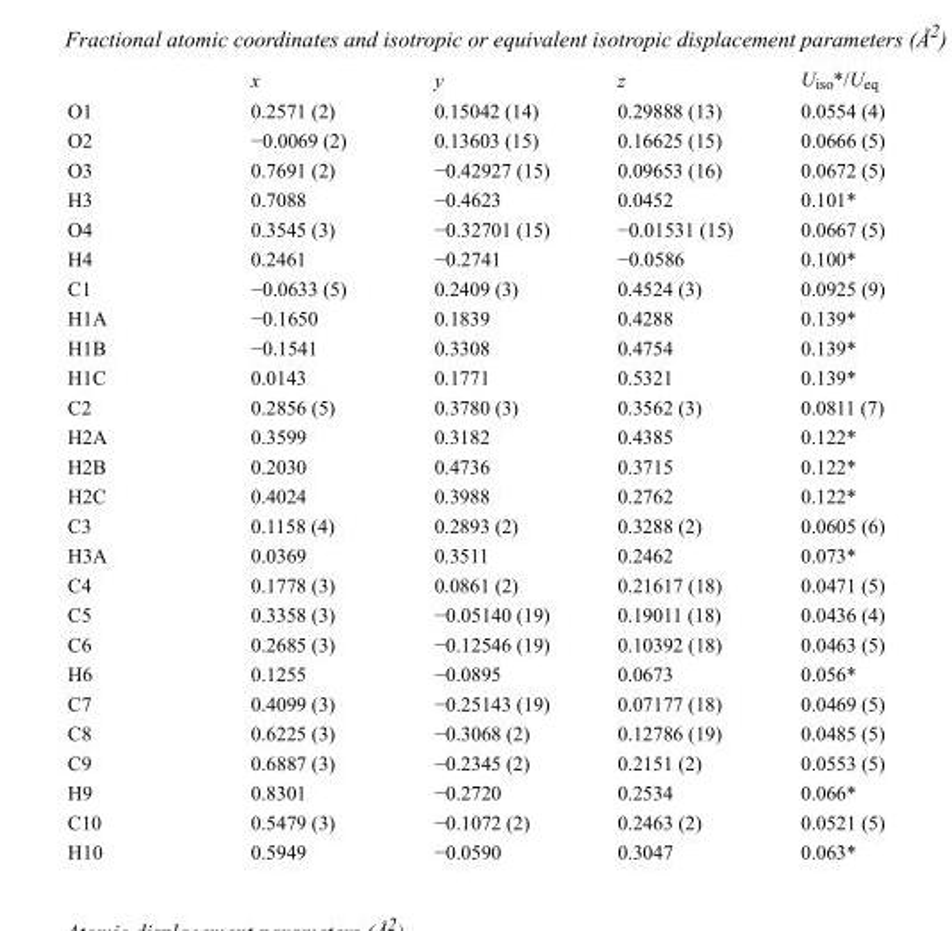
<table><thead><tr><td></td><td>x</td><td>y</td><td>z</td><td>U<sub>iso</sub>*/U<sub>eq</sub></td></tr></thead><tbody><tr><td>O1</td><td>0.2571 (2)</td><td>0.15042 (14)</td><td>0.29888 (13)</td><td>0.0554 (4)</td></tr><tr><td>O2</td><td>−0.0069 (2)</td><td>0.13603 (15)</td><td>0.16625 (15)</td><td>0.0666 (5)</td></tr><tr><td>O3</td><td>0.7691 (2)</td><td>−0.42927 (15)</td><td>0.09653 (16)</td><td>0.0672 (5)</td></tr><tr><td>H3</td><td>0.7088</td><td>−0.4623</td><td>0.0452</td><td>0.101*</td></tr><tr><td>O4</td><td>0.3545 (3)</td><td>−0.32701 (15)</td><td>−0.01531 (15)</td><td>0.0667 (5)</td></tr><tr><td>H4</td><td>0.2461</td><td>−0.2741</td><td>−0.0586</td><td>0.100*</td></tr><tr><td>C1</td><td>−0.0633 (5)</td><td>0.2409 (3)</td><td>0.4524 (3)</td><td>0.0925 (9)</td></tr><tr><td>H1A</td><td>−0.1650</td><td>0.1839</td><td>0.4288</td><td>0.139*</td></tr><tr><td>H1B</td><td>−0.1541</td><td>0.3308</td><td>0.4754</td><td>0.139*</td></tr><tr><td>H1C</td><td>0.0143</td><td>0.1771</td><td>0.5321</td><td>0.139*</td></tr><tr><td>C2</td><td>0.2856 (5)</td><td>0.3780 (3)</td><td>0.3562 (3)</td><td>0.0811 (7)</td></tr><tr><td>H2A</td><td>0.3599</td><td>0.3182</td><td>0.4385</td><td>0.122*</td></tr><tr><td>H2B</td><td>0.2030</td><td>0.4736</td><td>0.3715</td><td>0.122*</td></tr><tr><td>H2C</td><td>0.4024</td><td>0.3988</td><td>0.2762</td><td>0.122*</td></tr><tr><td>C3</td><td>0.1158 (4)</td><td>0.2893 (2)</td><td>0.3288 (2)</td><td>0.0605 (6)</td></tr><tr><td>H3A</td><td>0.0369</td><td>0.3511</td><td>0.2462</td><td>0.073*</td></tr><tr><td>C4</td><td>0.1778 (3)</td><td>0.0861 (2)</td><td>0.21617 (18)</td><td>0.0471 (5)</td></tr><tr><td>C5</td><td>0.3358 (3)</td><td>−0.05140 (19)</td><td>0.19011 (18)</td><td>0.0436 (4)</td></tr><tr><td>C6</td><td>0.2685 (3)</td><td>−0.12546 (19)</td><td>0.10392 (18)</td><td>0.0463 (5)</td></tr><tr><td>H6</td><td>0.1255</td><td>−0.0895</td><td>0.0673</td><td>0.056*</td></tr><tr><td>C7</td><td>0.4099 (3)</td><td>−0.25143 (19)</td><td>0.07177 (18)</td><td>0.0469 (5)</td></tr><tr><td>C8</td><td>0.6225 (3)</td><td>−0.3068 (2)</td><td>0.12786 (19)</td><td>0.0485 (5)</td></tr><tr><td>C9</td><td>0.6887 (3)</td><td>−0.2345 (2)</td><td>0.2151 (2)</td><td>0.0553 (5)</td></tr><tr><td>H9</td><td>0.8301</td><td>−0.2720</td><td>0.2534</td><td>0.066*</td></tr><tr><td>C10</td><td>0.5479 (3)</td><td>−0.1072 (2)</td><td>0.2463 (2)</td><td>0.0521 (5)</td></tr><tr><td>H10</td><td>0.5949</td><td>−0.0590</td><td>0.3047</td><td>0.063*</td></tr></tbody></table>